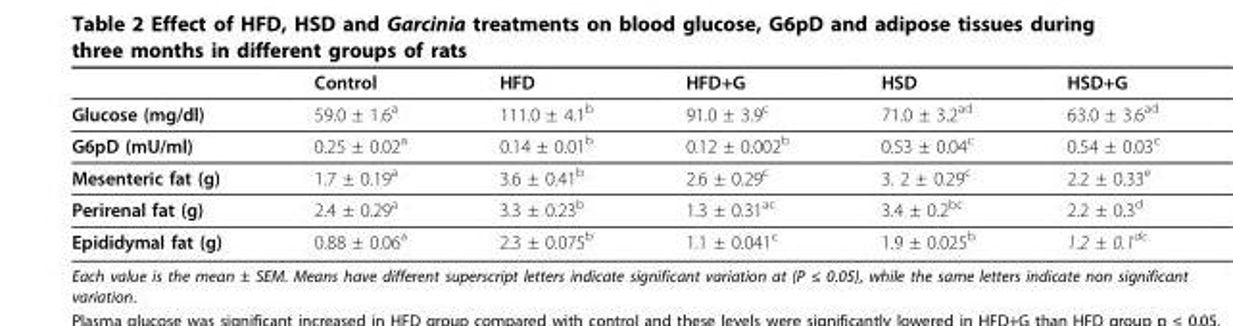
<table><thead><tr><td></td><td>Control</td><td>HFD</td><td>HFD+G</td><td>HSD</td><td>HSD+G</td></tr></thead><tbody><tr><td>Glucose (mg/dl)</td><td>59.0 ± 1.6<sup>a</sup></td><td>111.0 ± 4.1<sup>b</sup></td><td>91.0 ± 3.9<sup>c</sup></td><td>71.0 ± 3.2<sup>ad</sup></td><td>63.0 ± 3.6<sup>ad</sup></td></tr><tr><td>G6pD (mU/ml)</td><td>0.25 ± 0.02<sup>a</sup></td><td>0.14 ± 0.01<sup>b</sup></td><td>0.12 ± 0.002<sup>b</sup></td><td>0.53 ± 0.04<sup>c</sup></td><td>0.54 ± 0.03<sup>c</sup></td></tr><tr><td>Mesenteric fat (g)</td><td>1.7 ± 0.19<sup>a</sup></td><td>3.6 ± 0.41<sup>b</sup></td><td>2.6 ± 0.29<sup>c</sup></td><td>3. 2 ± 0.29<sup>c</sup></td><td>2.2 ± 0.33<sup>e</sup></td></tr><tr><td>Perirenal fat (g)</td><td>2.4 ± 0.29<sup>a</sup></td><td>3.3 ± 0.23<sup>b</sup></td><td>1.3 ± 0.31<sup>ac</sup></td><td>3.4 ± 0.2<sup>bc</sup></td><td>2.2 ± 0.3<sup>d</sup></td></tr><tr><td>Epididymal fat (g)</td><td>0.88 ± 0.06<sup>a</sup></td><td>2.3 ± 0.075<sup>b</sup></td><td>1.1 ± 0.041<sup>c</sup></td><td>1.9 ± 0.025<sup>b</sup></td><td>1.2 ± 0.1<sup>dc</sup></td></tr></tbody></table>